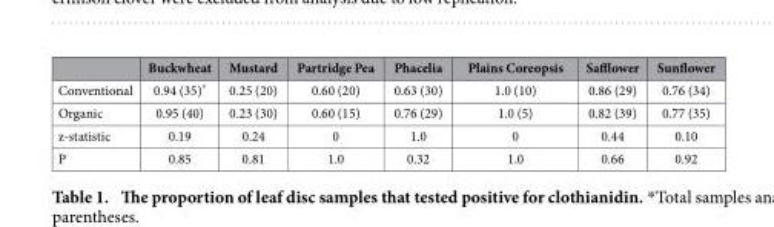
<table><thead><tr><td></td><td>Buckwheat</td><td>Mustard</td><td>Partridge Pea</td><td>Phacelia</td><td>Plains Coreopsis</td><td>Safflower</td><td>Sunflower</td></tr></thead><tbody><tr><td>Conventional</td><td>0.94 (35)*</td><td>0.25 (20)</td><td>0.60 (20)</td><td>0.63 (30)</td><td>1.0 (10)</td><td>0.86 (29)</td><td>0.76 (34)</td></tr><tr><td>Organic</td><td>0.95 (40)</td><td>0.23 (30)</td><td>0.60 (15)</td><td>0.76 (29)</td><td>1.0 (5)</td><td>0.82 (39)</td><td>0.77 (35)</td></tr><tr><td>z-statistic</td><td>0.19</td><td>0.24</td><td>0</td><td>1.0</td><td>0</td><td>0.44</td><td>0.10</td></tr><tr><td>P</td><td>0.85</td><td>0.81</td><td>1.0</td><td>0.32</td><td>1.0</td><td>0.66</td><td>0.92</td></tr></tbody></table>